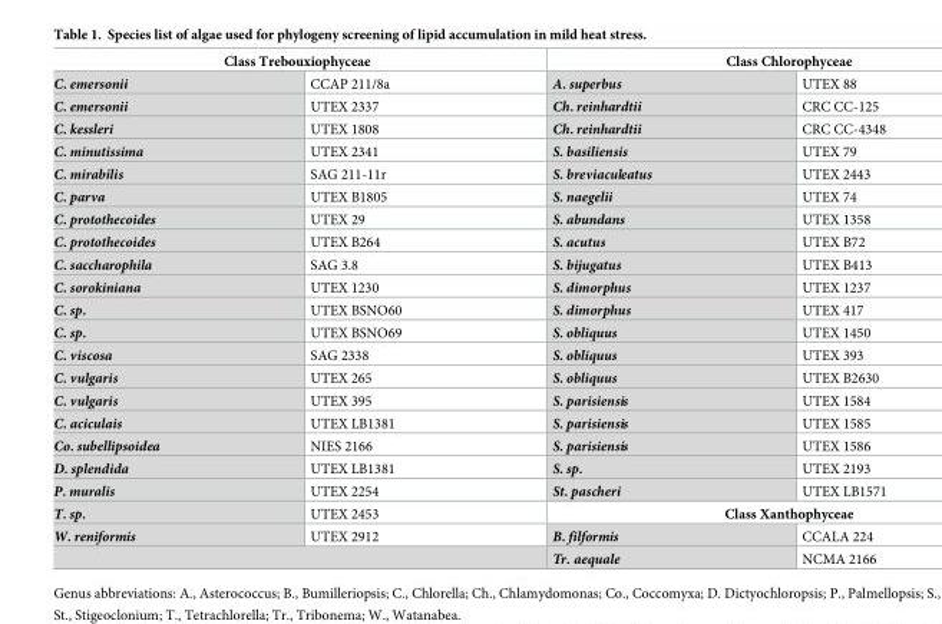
<table><thead><tr><td colspan="2">Class Trebouxiophyceae</td><td colspan="2">Class Chlorophyceae</td></tr><tr><td>C. emersonii</td><td>CCAP 211/8a</td><td>A. superbus</td><td>UTEX 88</td></tr></thead><tbody><tr><td>C. emersonii</td><td>UTEX 2337</td><td>Ch. reinhardtii</td><td>CRC CC-125</td></tr><tr><td>C. kessleri</td><td>UTEX 1808</td><td>Ch. reinhardtii</td><td>CRC CC-4348</td></tr><tr><td>C. minutissima</td><td>UTEX 2341</td><td>S. basiliensis</td><td>UTEX 79</td></tr><tr><td>C. mirabilis</td><td>SAG 211-11r</td><td>S. breviaculeatus</td><td>UTEX 2443</td></tr><tr><td>C. parva</td><td>UTEX B1805</td><td>S. naegelii</td><td>UTEX 74</td></tr><tr><td>C. protothecoides</td><td>UTEX 29</td><td>S. abundans</td><td>UTEX 1358</td></tr><tr><td>C. protothecoides</td><td>UTEX B264</td><td>S. acutus</td><td>UTEX B72</td></tr><tr><td>C. saccharophila</td><td>SAG 3.8</td><td>S. bijugatus</td><td>UTEX B413</td></tr><tr><td>C. sorokiniana</td><td>UTEX 1230</td><td>S. dimorphus</td><td>UTEX 1237</td></tr><tr><td>C. sp.</td><td>UTEX BSNO60</td><td>S. dimorphus</td><td>UTEX 417</td></tr><tr><td>C. sp.</td><td>UTEX BSNO69</td><td>S. obliquus</td><td>UTEX 1450</td></tr><tr><td>C. viscosa</td><td>SAG 2338</td><td>S. obliquus</td><td>UTEX 393</td></tr><tr><td>C. vulgaris</td><td>UTEX 265</td><td>S. obliquus</td><td>UTEX B2630</td></tr><tr><td>C. vulgaris</td><td>UTEX 395</td><td>S. parisiensis</td><td>UTEX 1584</td></tr><tr><td>C. aciculais</td><td>UTEX LB1381</td><td>S. parisiensis</td><td>UTEX 1585</td></tr><tr><td>Co. subellipsoidea</td><td>NIES 2166</td><td>S. parisiensis</td><td>UTEX 1586</td></tr><tr><td>D. splendida</td><td>UTEX LB1381</td><td>S. sp.</td><td>UTEX 2193</td></tr><tr><td>P. muralis</td><td>UTEX 2254</td><td>St. pascheri</td><td>UTEX LB1571</td></tr><tr><td>T. sp.</td><td>UTEX 2453</td><td colspan="2">Class Xanthophyceae</td></tr><tr><td>W. reniformis</td><td>UTEX 2912</td><td>B. filformis</td><td>CCALA 224</td></tr><tr><td colspan="2"></td><td>Tr. aequale</td><td>NCMA 2166</td></tr></tbody></table>